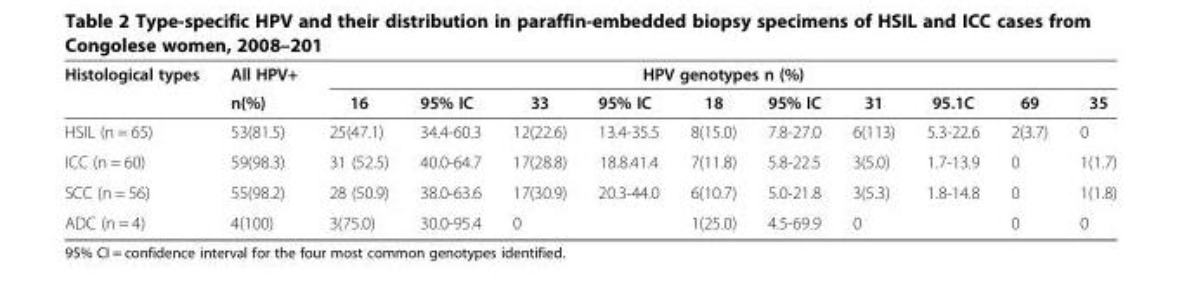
<table><thead><tr><td rowspan="2">Histological types</td><td rowspan="2">All HPV+ n(%)</td><td colspan="10">HPV genotypes n (%)</td></tr><tr><td>16</td><td>95% IC</td><td>33</td><td>95% IC</td><td>18</td><td>95% IC</td><td>31</td><td>95.1C</td><td>69</td><td>35</td></tr></thead><tbody><tr><td>HSIL (n = 65)</td><td>53(81.5)</td><td>25(47.1)</td><td>34.4-60.3</td><td>12(22.6)</td><td>13.4-35.5</td><td>8(15.0)</td><td>7.8-27.0</td><td>6(113)</td><td>5.3-22.6</td><td>2(3.7)</td><td>0</td></tr><tr><td>ICC (n = 60)</td><td>59(98.3)</td><td>31 (52.5)</td><td>40.0-64.7</td><td>17(28.8)</td><td>18.8.41.4</td><td>7(11.8)</td><td>5.8-22.5</td><td>3(5.0)</td><td>1.7-13.9</td><td>0</td><td>1(1.7)</td></tr><tr><td>SCC (n = 56)</td><td>55(98.2)</td><td>28 (50.9)</td><td>38.0-63.6</td><td>17(30.9)</td><td>20.3-44.0</td><td>6(10.7)</td><td>5.0-21.8</td><td>3(5.3)</td><td>1.8-14.8</td><td>0</td><td>1(1.8)</td></tr><tr><td>ADC (n = 4)</td><td>4(100)</td><td>3(75.0)</td><td>30.0-95.4</td><td>0</td><td></td><td>1(25.0)</td><td>4.5-69.9</td><td>0</td><td></td><td>0</td><td>0</td></tr></tbody></table>